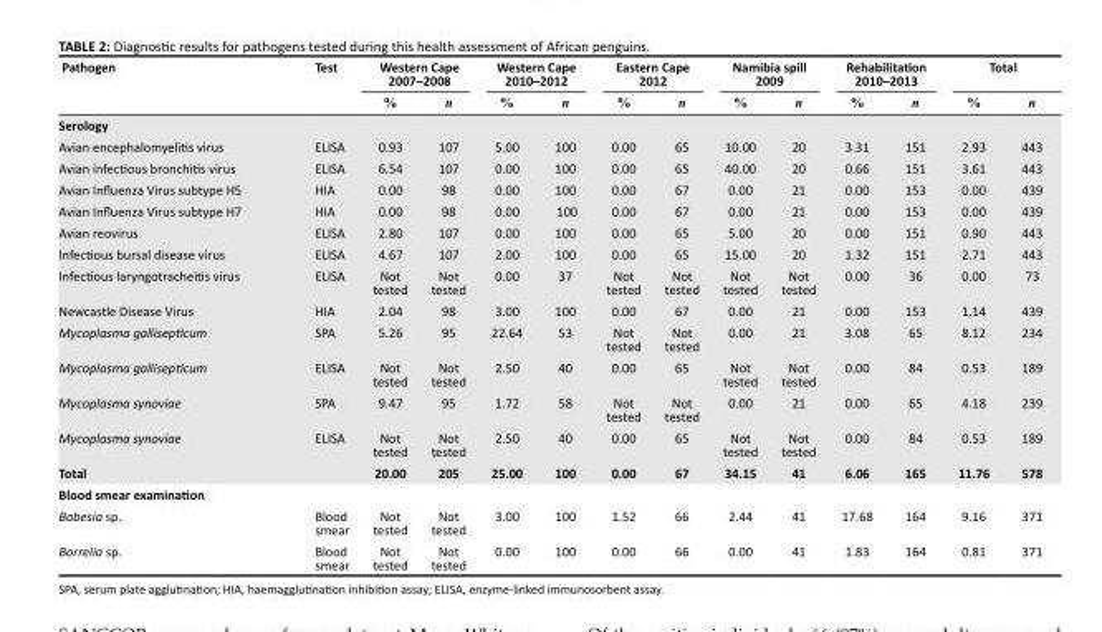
<table><thead><tr><td rowspan="2">Pathogen</td><td rowspan="2">Test</td><td colspan="2">Western Cape 2007–2008</td><td colspan="2">Western Cape 2010–2012</td><td colspan="2">Eastern Cape 2012</td><td colspan="2">Namibia spill 2009</td><td colspan="2">Rehabilitation 2010–2013</td><td colspan="2">Total</td></tr><tr><td>%</td><td>n</td><td>%</td><td>n</td><td>%</td><td>n</td><td>%</td><td>n</td><td>%</td><td>n</td><td>%</td><td>n</td></tr></thead><tbody><tr><td colspan="14">Serology</td></tr><tr><td>Avian encephalomyelitis virus</td><td>ELISA</td><td>0.93</td><td>107</td><td>5.00</td><td>100</td><td>0.00</td><td>65</td><td>10.00</td><td>20</td><td>3.31</td><td>151</td><td>2.93</td><td>443</td></tr><tr><td>Avian infectious bronchitis virus</td><td>ELISA</td><td>6.54</td><td>107</td><td>0.00</td><td>100</td><td>0.00</td><td>65</td><td>40.00</td><td>20</td><td>0.66</td><td>151</td><td>3.61</td><td>443</td></tr><tr><td>Avian Influenza Virus subtype H5</td><td>HIA</td><td>0.00</td><td>98</td><td>0.00</td><td>100</td><td>0.00</td><td>67</td><td>0.00</td><td>21</td><td>0.00</td><td>153</td><td>0.00</td><td>439</td></tr><tr><td>Avian Influenza Virus subtype H7</td><td>HIA</td><td>0.00</td><td>98</td><td>0.00</td><td>100</td><td>0.00</td><td>67</td><td>0.00</td><td>21</td><td>0.00</td><td>153</td><td>0.00</td><td>439</td></tr><tr><td>Avian reovirus</td><td>ELISA</td><td>2.80</td><td>107</td><td>0.00</td><td>100</td><td>0.00</td><td>65</td><td>5.00</td><td>20</td><td>0.00</td><td>151</td><td>0.90</td><td>443</td></tr><tr><td>Infectious bursal disease virus</td><td>ELISA</td><td>4.67</td><td>107</td><td>2.00</td><td>100</td><td>0.00</td><td>65</td><td>15.00</td><td>20</td><td>1.32</td><td>151</td><td>2.71</td><td>443</td></tr><tr><td>Infectious laryngotracheitis virus</td><td>ELISA</td><td>Not tested</td><td>Not tested</td><td>0.00</td><td>37</td><td>Not tested</td><td>Not tested</td><td>Not tested</td><td>Not tested</td><td>0.00</td><td>36</td><td>0.00</td><td>73</td></tr><tr><td>Newcastle Disease Virus</td><td>HIA</td><td>2.04</td><td>98</td><td>3.00</td><td>100</td><td>0.00</td><td>67</td><td>0.00</td><td>21</td><td>0.00</td><td>153</td><td>1.14</td><td>439</td></tr><tr><td>Mycoplasma gallisepticum</td><td>SPA</td><td>5.26</td><td>95</td><td>22.64</td><td>53</td><td>Not tested</td><td>Not tested</td><td>0.00</td><td>21</td><td>3.08</td><td>65</td><td>8.12</td><td>234</td></tr><tr><td>Mycoplasma gallisepticum</td><td>ELISA</td><td>Not tested</td><td>Not tested</td><td>2.50</td><td>40</td><td>0.00</td><td>65</td><td>Not tested</td><td>Not tested</td><td>0.00</td><td>84</td><td>0.53</td><td>189</td></tr><tr><td>Mycoplasma synoviae</td><td>SPA</td><td>9.47</td><td>95</td><td>1.72</td><td>58</td><td>Not tested</td><td>Not tested</td><td>0.00</td><td>21</td><td>0.00</td><td>65</td><td>4.18</td><td>239</td></tr><tr><td>Mycoplasma synoviae</td><td>ELISA</td><td>Not tested</td><td>Not tested</td><td>2.50</td><td>40</td><td>0.00</td><td>65</td><td>Not tested</td><td>Not tested</td><td>0.00</td><td>84</td><td>0.53</td><td>189</td></tr><tr><td>Total</td><td></td><td>20.00</td><td>205</td><td>25.00</td><td>100</td><td>0.00</td><td>67</td><td>34.15</td><td>41</td><td>6.06</td><td>165</td><td>11.76</td><td>578</td></tr><tr><td colspan="14">Blood smear examination</td></tr><tr><td>Babesia sp.</td><td>Blood smear</td><td>Not tested</td><td>Not tested</td><td>3.00</td><td>100</td><td>1.52</td><td>66</td><td>2.44</td><td>41</td><td>17.68</td><td>164</td><td>9.16</td><td>371</td></tr><tr><td>Borrelia sp.</td><td>Blood smear</td><td>Not tested</td><td>Not tested</td><td>0.00</td><td>100</td><td>0.00</td><td>66</td><td>0.00</td><td>41</td><td>1.83</td><td>164</td><td>0.81</td><td>371</td></tr></tbody></table>